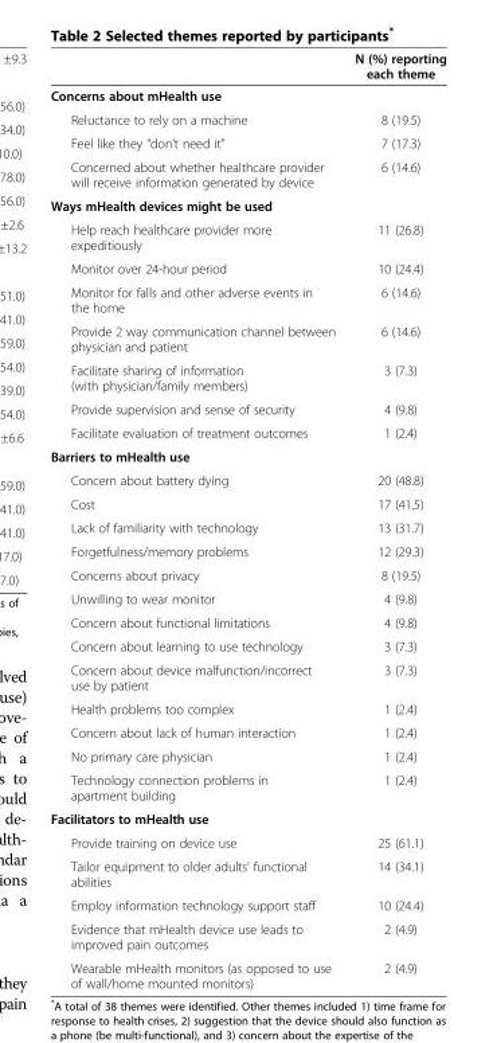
<table><thead><tr><td></td><td>N (%) reporting each theme</td></tr></thead><tbody><tr><td colspan="2">Concerns about mHealth use</td></tr><tr><td>Reluctance to rely on a machine</td><td>8 (19.5)</td></tr><tr><td>Feel like they “don’t need it”</td><td>7 (17.3)</td></tr><tr><td>Concerned about whether healthcare provider will receive information generated by device</td><td>6 (14.6)</td></tr><tr><td colspan="2">Ways mHealth devices might be used</td></tr><tr><td>Help reach healthcare provider more expeditiously</td><td>11 (26.8)</td></tr><tr><td>Monitor over 24-hour period</td><td>10 (24.4)</td></tr><tr><td>Monitor for falls and other adverse events in the home</td><td>6 (14.6)</td></tr><tr><td>Provide 2 way communication channel between physician and patient</td><td>6 (14.6)</td></tr><tr><td>Facilitate sharing of information (with physician/family members)</td><td>3 (7.3)</td></tr><tr><td>Provide supervision and sense of security</td><td>4 (9.8)</td></tr><tr><td>Facilitate evaluation of treatment outcomes</td><td>1 (2.4)</td></tr><tr><td colspan="2">Barriers to mHealth use</td></tr><tr><td>Concern about battery dying</td><td>20 (48.8)</td></tr><tr><td>Cost</td><td>17 (41.5)</td></tr><tr><td>Lack of familiarity with technology</td><td>13 (31.7)</td></tr><tr><td>Forgetfulness/memory problems</td><td>12 (29.3)</td></tr><tr><td>Concerns about privacy</td><td>8 (19.5)</td></tr><tr><td>Unwilling to wear monitor</td><td>4 (9.8)</td></tr><tr><td>Concern about functional limitations</td><td>4 (9.8)</td></tr><tr><td>Concern about learning to use technology</td><td>3 (7.3)</td></tr><tr><td>Concern about device malfunction/incorrect use by patient</td><td>3 (7.3)</td></tr><tr><td>Health problems too complex</td><td>1 (2.4)</td></tr><tr><td>Concern about lack of human interaction</td><td>1 (2.4)</td></tr><tr><td>No primary care physician</td><td>1 (2.4)</td></tr><tr><td>Technology connection problems in apartment building</td><td>1 (2.4)</td></tr><tr><td colspan="2">Facilitators to mHealth use</td></tr><tr><td>Provide training on device use</td><td>25 (61.1)</td></tr><tr><td>Tailor equipment to older adults’ functional abilities</td><td>14 (34.1)</td></tr><tr><td>Employ information technology support staff</td><td>10 (24.4)</td></tr><tr><td>Evidence that mHealth device use leads to improved pain outcomes</td><td>2 (4.9)</td></tr><tr><td>Wearable mHealth monitors (as opposed to use of wall/home mounted monitors)</td><td>2 (4.9)</td></tr></tbody></table>